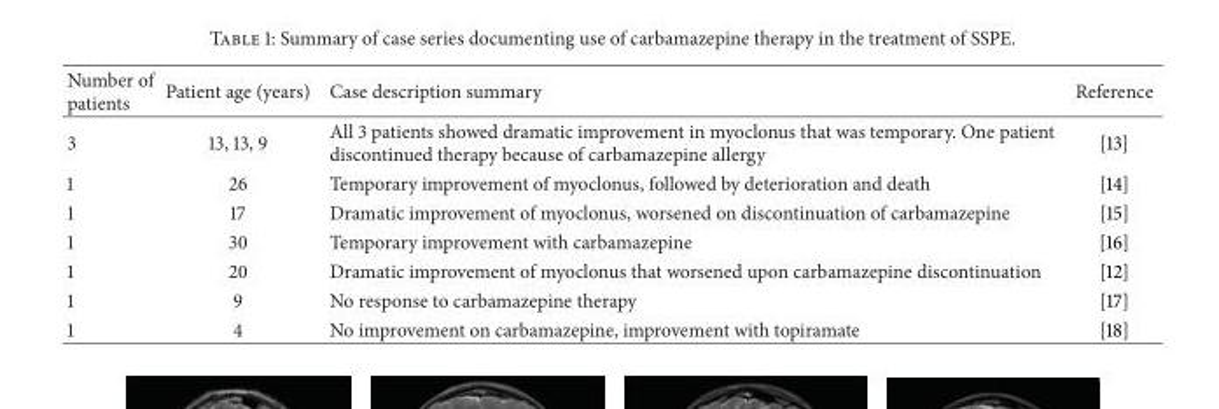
<table><thead><tr><td>Number of patients</td><td>Patient age (years)</td><td>Case description summary</td><td>Reference</td></tr></thead><tbody><tr><td>3</td><td>13, 13, 9</td><td>All 3 patients showed dramatic improvement in myoclonus that was temporary. One patient discontinued therapy because of carbamazepine allergy</td><td>[13]</td></tr><tr><td>1</td><td>26</td><td>Temporary improvement of myoclonus, followed by deterioration and death</td><td>[14]</td></tr><tr><td>1</td><td>17</td><td>Dramatic improvement of myoclonus, worsened on discontinuation of carbamazepine</td><td>[15]</td></tr><tr><td>1</td><td>30</td><td>Temporary improvement with carbamazepine</td><td>[16]</td></tr><tr><td>1</td><td>20</td><td>Dramatic improvement of myoclonus that worsened upon carbamazepine discontinuation</td><td>[12]</td></tr><tr><td>1</td><td>9</td><td>No response to carbamazepine therapy</td><td>[17]</td></tr><tr><td>1</td><td>4</td><td>No improvement on carbamazepine, improvement with topiramate</td><td>[18]</td></tr></tbody></table>